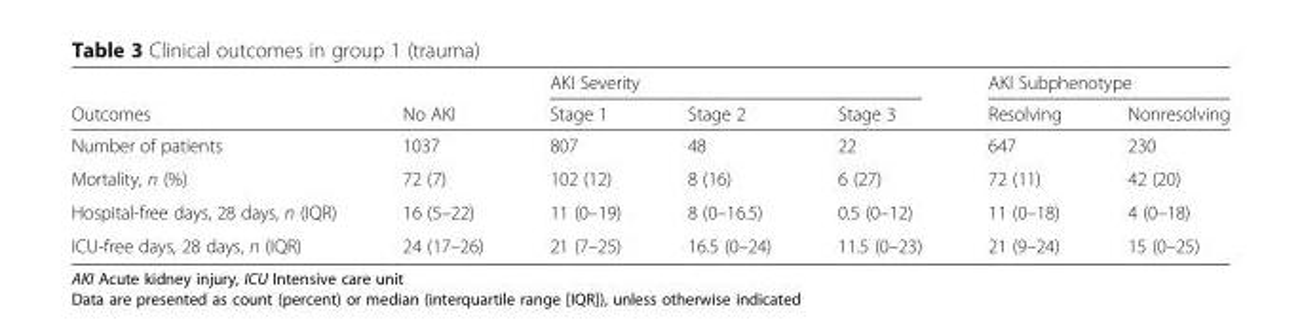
<table><thead><tr><td rowspan="2">Outcomes</td><td rowspan="2">No AKI</td><td colspan="3">AKI Severity</td><td colspan="2">AKI Subphenotype</td></tr><tr><td>Stage 1</td><td>Stage 2</td><td>Stage 3</td><td>Resolving</td><td>Nonresolving</td></tr></thead><tbody><tr><td>Number of patients</td><td>1037</td><td>807</td><td>48</td><td>22</td><td>647</td><td>230</td></tr><tr><td>Mortality, n (%)</td><td>72 (7)</td><td>102 (12)</td><td>8 (16)</td><td>6 (27)</td><td>72 (11)</td><td>42 (20)</td></tr><tr><td>Hospital-free days, 28 days, n (IQR)</td><td>16 (5–22)</td><td>11 (0–19)</td><td>8 (0–16.5)</td><td>0.5 (0–12)</td><td>11 (0–18)</td><td>4 (0–18)</td></tr><tr><td>ICU-free days, 28 days, n (IQR)</td><td>24 (17–26)</td><td>21 (7–25)</td><td>16.5 (0–24)</td><td>11.5 (0–23)</td><td>21 (9–24)</td><td>15 (0–25)</td></tr></tbody></table>